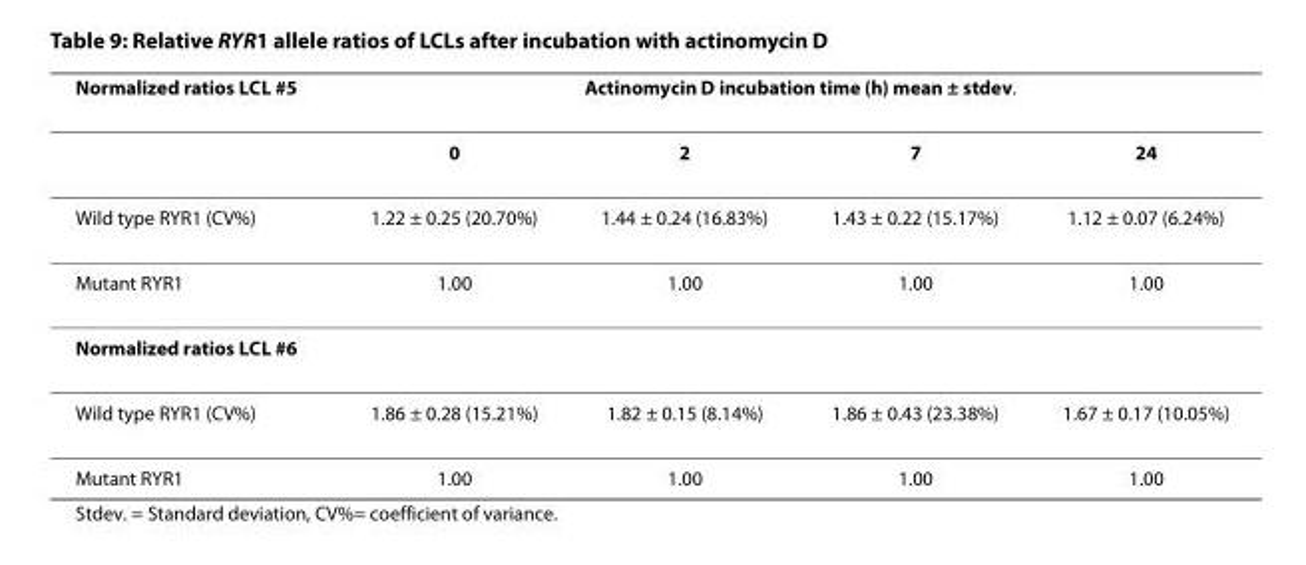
<table><thead><tr><td rowspan="2">Normalized ratios LCL #5</td><td colspan="4">Actinomycin D incubation time (h) mean ± stdev.</td></tr><tr><td>0</td><td>2</td><td>7</td><td>24</td></tr></thead><tbody><tr><td>Wild type RYR1 (CV%)</td><td>1.22 ± 0.25 (20.70%)</td><td>1.44 ± 0.24 (16.83%)</td><td>1.43 ± 0.22 (15.17%)</td><td>1.12 ± 0.07 (6.24%)</td></tr><tr><td>Mutant RYR1</td><td>1.00</td><td>1.00</td><td>1.00</td><td>1.00</td></tr><tr><td colspan="5">Normalized ratios LCL #6</td></tr><tr><td>Wild type RYR1 (CV%)</td><td>1.86 ± 0.28 (15.21%)</td><td>1.82 ± 0.15 (8.14%)</td><td>1.86 ± 0.43 (23.38%)</td><td>1.67 ± 0.17 (10.05%)</td></tr><tr><td>Mutant RYR1</td><td>1.00</td><td>1.00</td><td>1.00</td><td>1.00</td></tr></tbody></table>